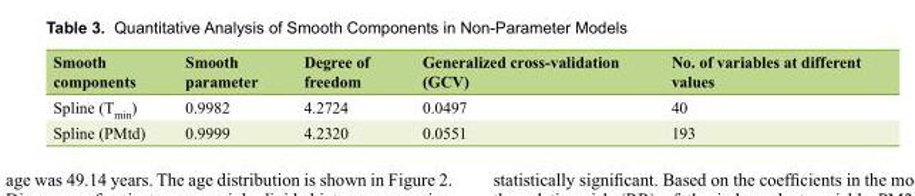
<table><thead><tr><td>Smooth components</td><td>Smooth parameter</td><td>Degree of freedom</td><td>Generalized cross-validation (GCV)</td><td>No. of variables at different values</td></tr></thead><tbody><tr><td>Spline (T<sub>min</sub>)</td><td>0.9982</td><td>4.2724</td><td>0.0497</td><td>40</td></tr><tr><td>Spline (PMtd)</td><td>0.9999</td><td>4.2320</td><td>0.0551</td><td>193</td></tr></tbody></table>